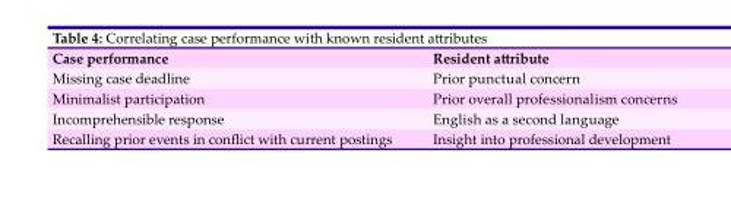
<table><thead><tr><td>Case performance</td><td>Resident attribute</td></tr></thead><tbody><tr><td>Missing case deadline</td><td>Prior punctual concern</td></tr><tr><td>Minimalist participation</td><td>Prior overall professionalism concerns</td></tr><tr><td>Incomprehensible response</td><td>English as a second language</td></tr><tr><td>Recalling prior events in conflict with current postings</td><td>Insight into professional development</td></tr></tbody></table>